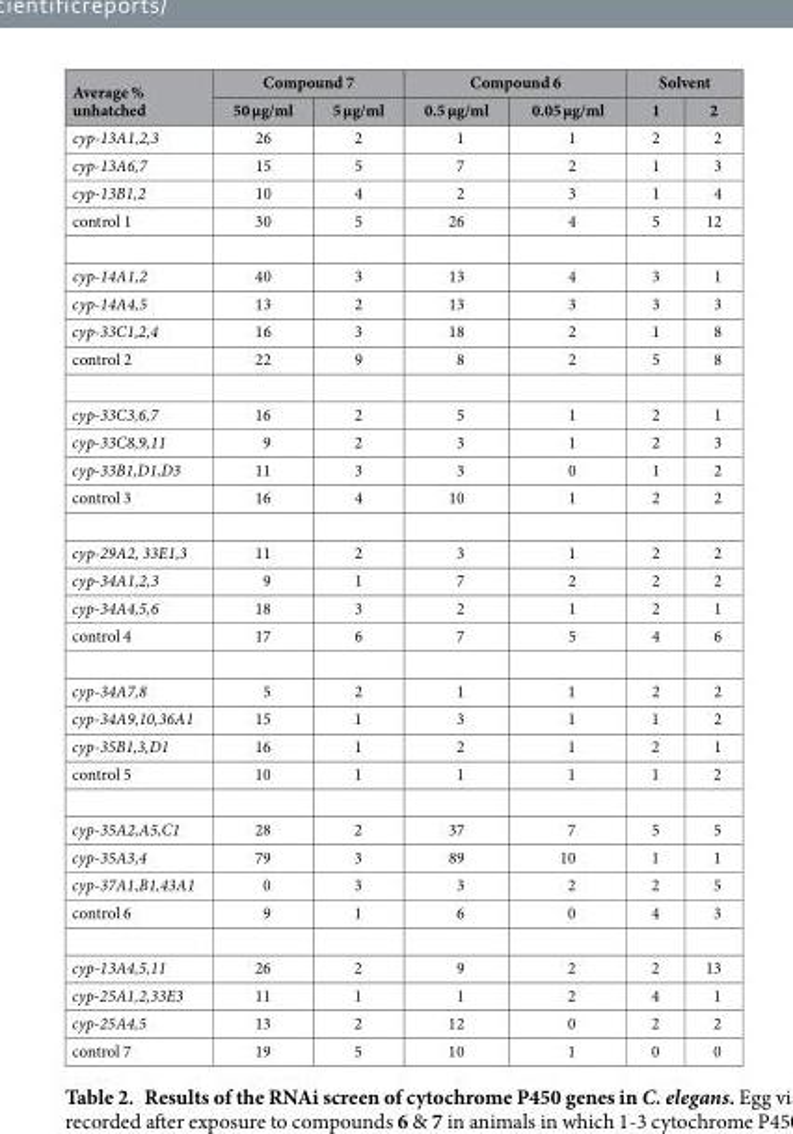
<table><thead><tr><td rowspan="2">Average % unhatched</td><td colspan="2">Compound 7</td><td colspan="2">Compound 6</td><td colspan="2">Solvent</td></tr><tr><td>50 μg/ml</td><td>5 μg/ml</td><td>0.5 μg/ml</td><td>0.05 μg/ml</td><td>1</td><td>2</td></tr></thead><tbody><tr><td>cyp-13A1,2,3</td><td>26</td><td>2</td><td>1</td><td>1</td><td>2</td><td>2</td></tr><tr><td>cyp-13A6,7</td><td>15</td><td>5</td><td>7</td><td>2</td><td>1</td><td>3</td></tr><tr><td>cyp-13B1,2</td><td>10</td><td>4</td><td>2</td><td>3</td><td>1</td><td>4</td></tr><tr><td>control 1</td><td>30</td><td>5</td><td>26</td><td>4</td><td>5</td><td>12</td></tr><tr><td>cyp-14A1,2</td><td>40</td><td>3</td><td>13</td><td>4</td><td>3</td><td>1</td></tr><tr><td>cyp-14A4,5</td><td>13</td><td>2</td><td>13</td><td>3</td><td>3</td><td>3</td></tr><tr><td>cyp-33C1,2,4</td><td>16</td><td>3</td><td>18</td><td>2</td><td>1</td><td>8</td></tr><tr><td>control 2</td><td>22</td><td>9</td><td>8</td><td>2</td><td>5</td><td>8</td></tr><tr><td>cyp-33C3,6,7</td><td>16</td><td>2</td><td>5</td><td>1</td><td>2</td><td>1</td></tr><tr><td>cyp-33C8,9,11</td><td>9</td><td>2</td><td>3</td><td>1</td><td>2</td><td>3</td></tr><tr><td>cyp-33B1,D1,D3</td><td>11</td><td>3</td><td>3</td><td>0</td><td>1</td><td>2</td></tr><tr><td>control 3</td><td>16</td><td>4</td><td>10</td><td>1</td><td>2</td><td>2</td></tr><tr><td>cyp-29A2, 33E1,3</td><td>11</td><td>2</td><td>3</td><td>1</td><td>2</td><td>2</td></tr><tr><td>cyp-34A1,2,3</td><td>9</td><td>1</td><td>7</td><td>2</td><td>2</td><td>2</td></tr><tr><td>cyp-34A4,5,6</td><td>18</td><td>3</td><td>2</td><td>1</td><td>2</td><td>1</td></tr><tr><td>control 4</td><td>17</td><td>6</td><td>7</td><td>5</td><td>4</td><td>6</td></tr><tr><td>cyp-34A7,8</td><td>5</td><td>2</td><td>1</td><td>1</td><td>2</td><td>2</td></tr><tr><td>cyp-34A9,10,36A1</td><td>15</td><td>1</td><td>3</td><td>1</td><td>1</td><td>2</td></tr><tr><td>cyp-35B1,3,D1</td><td>16</td><td>1</td><td>2</td><td>1</td><td>2</td><td>1</td></tr><tr><td>control 5</td><td>10</td><td>1</td><td>1</td><td>1</td><td>1</td><td>2</td></tr><tr><td>cyp-35A2,A5,C1</td><td>28</td><td>2</td><td>37</td><td>7</td><td>5</td><td>5</td></tr><tr><td>cyp-35A3,4</td><td>79</td><td>3</td><td>89</td><td>10</td><td>1</td><td>1</td></tr><tr><td>cyp-37A1,B1,43A1</td><td>0</td><td>3</td><td>3</td><td>2</td><td>2</td><td>5</td></tr><tr><td>control 6</td><td>9</td><td>1</td><td>6</td><td>0</td><td>4</td><td>3</td></tr><tr><td>cyp-13A4,5,11</td><td>26</td><td>2</td><td>9</td><td>2</td><td>2</td><td>13</td></tr><tr><td>cyp-25A1,2,33E3</td><td>11</td><td>1</td><td>1</td><td>2</td><td>4</td><td>1</td></tr><tr><td>cyp-25A4,5</td><td>13</td><td>2</td><td>12</td><td>0</td><td>2</td><td>2</td></tr><tr><td>control 7</td><td>19</td><td>5</td><td>10</td><td>1</td><td>0</td><td>0</td></tr></tbody></table>